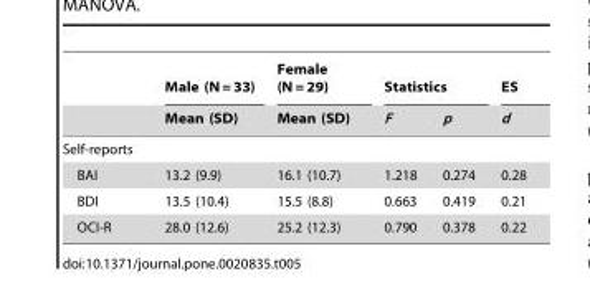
<table><thead><tr><td rowspan="2"></td><td rowspan="2">Male (N = 33) Mean (SD)</td><td rowspan="2">Female (N = 29) Mean (SD)</td><td colspan="2">Statistics</td><td rowspan="2">ES d</td></tr><tr><td>F</td><td>p</td></tr></thead><tbody><tr><td colspan="6">Self-reports</td></tr><tr><td>BAI</td><td>13.2 (9.9)</td><td>16.1 (10.7)</td><td>1.218</td><td>0.274</td><td>0.28</td></tr><tr><td>BDI</td><td>13.5 (10.4)</td><td>15.5 (8.8)</td><td>0.663</td><td>0.419</td><td>0.21</td></tr><tr><td>OCI-R</td><td>28.0 (12.6)</td><td>25.2 (12.3)</td><td>0.790</td><td>0.378</td><td>0.22</td></tr></tbody></table>